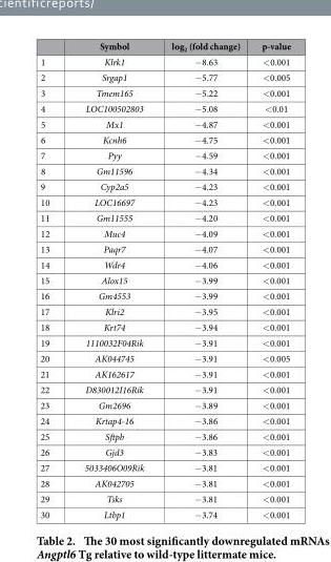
<table><thead><tr><td></td><td>Symbol</td><td>log<sub>2</sub> (fold change)</td><td>p-value</td></tr></thead><tbody><tr><td>1</td><td>Klrk1</td><td>− 8.63</td><td>&lt; 0.001</td></tr><tr><td>2</td><td>Srgap1</td><td>− 5.77</td><td>&lt; 0.005</td></tr><tr><td>3</td><td>Tmem165</td><td>− 5.22</td><td>&lt; 0.001</td></tr><tr><td>4</td><td>LOC100502803</td><td>− 5.08</td><td>&lt; 0.01</td></tr><tr><td>5</td><td>Mx1</td><td>− 4.87</td><td>&lt; 0.001</td></tr><tr><td>6</td><td>Kcnh6</td><td>− 4.75</td><td>&lt; 0.001</td></tr><tr><td>7</td><td>Pyy</td><td>− 4.59</td><td>&lt; 0.001</td></tr><tr><td>8</td><td>Gm11596</td><td>− 4.34</td><td>&lt; 0.001</td></tr><tr><td>9</td><td>Cyp2a5</td><td>− 4.23</td><td>&lt; 0.001</td></tr><tr><td>10</td><td>LOC16697</td><td>− 4.23</td><td>&lt; 0.001</td></tr><tr><td>11</td><td>Gm11555</td><td>− 4.20</td><td>&lt; 0.001</td></tr><tr><td>12</td><td>Muc4</td><td>− 4.09</td><td>&lt; 0.001</td></tr><tr><td>13</td><td>Paqr7</td><td>− 4.07</td><td>&lt; 0.001</td></tr><tr><td>14</td><td>Wdr4</td><td>− 4.06</td><td>&lt; 0.001</td></tr><tr><td>15</td><td>Alox15</td><td>− 3.99</td><td>&lt; 0.001</td></tr><tr><td>16</td><td>Gm4553</td><td>− 3.99</td><td>&lt; 0.001</td></tr><tr><td>17</td><td>Klri2</td><td>− 3.95</td><td>&lt; 0.001</td></tr><tr><td>18</td><td>Krt74</td><td>− 3.94</td><td>&lt; 0.001</td></tr><tr><td>19</td><td>1110032F04Rik</td><td>− 3.91</td><td>&lt; 0.001</td></tr><tr><td>20</td><td>AK044745</td><td>− 3.91</td><td>&lt; 0.005</td></tr><tr><td>21</td><td>AK162617</td><td>− 3.91</td><td>&lt; 0.001</td></tr><tr><td>22</td><td>D830012I16Rik</td><td>− 3.91</td><td>&lt; 0.001</td></tr><tr><td>23</td><td>Gm2696</td><td>− 3.89</td><td>&lt; 0.001</td></tr><tr><td>24</td><td>Krtap4-16</td><td>− 3.86</td><td>&lt; 0.001</td></tr><tr><td>25</td><td>Sftpb</td><td>− 3.86</td><td>&lt; 0.001</td></tr><tr><td>26</td><td>Gjd3</td><td>− 3.83</td><td>&lt; 0.001</td></tr><tr><td>27</td><td>5033406O09Rik</td><td>− 3.81</td><td>&lt; 0.001</td></tr><tr><td>28</td><td>AK042705</td><td>− 3.81</td><td>&lt; 0.001</td></tr><tr><td>29</td><td>Tsks</td><td>− 3.81</td><td>&lt; 0.001</td></tr><tr><td>30</td><td>Ltbp1</td><td>− 3.74</td><td>&lt; 0.001</td></tr></tbody></table>